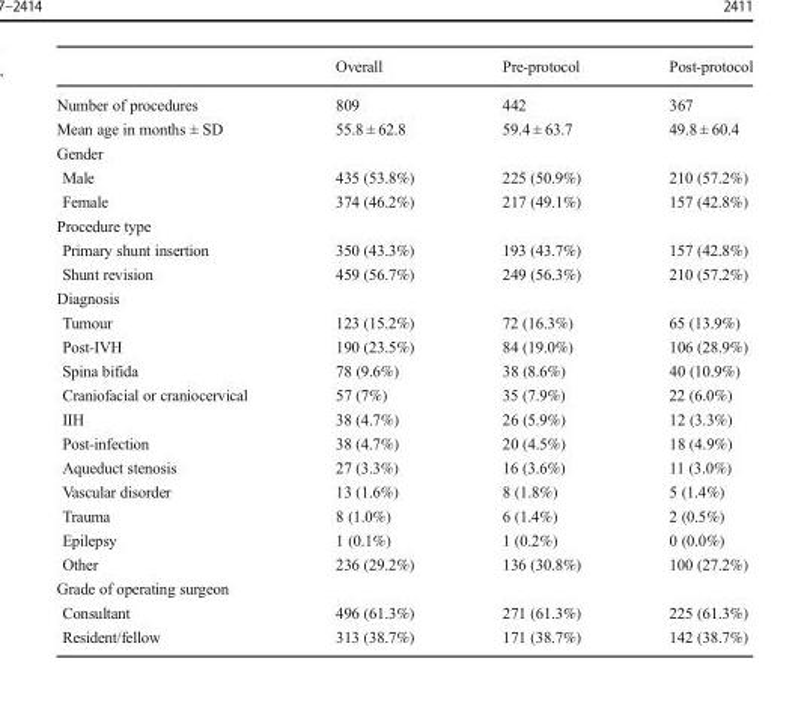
<table><thead><tr><td></td><td>Overall</td><td>Pre-protocol</td><td>Post-protocol</td></tr></thead><tbody><tr><td>Number of procedures</td><td>809</td><td>442</td><td>367</td></tr><tr><td>Mean age in months ± SD</td><td>55.8 ± 62.8</td><td>59.4 ± 63.7</td><td>49.8 ± 60.4</td></tr><tr><td colspan="4">Gender</td></tr><tr><td>Male</td><td>435 (53.8%)</td><td>225 (50.9%)</td><td>210 (57.2%)</td></tr><tr><td>Female</td><td>374 (46.2%)</td><td>217 (49.1%)</td><td>157 (42.8%)</td></tr><tr><td colspan="4">Procedure type</td></tr><tr><td>Primary shunt insertion</td><td>350 (43.3%)</td><td>193 (43.7%)</td><td>157 (42.8%)</td></tr><tr><td>Shunt revision</td><td>459 (56.7%)</td><td>249 (56.3%)</td><td>210 (57.2%)</td></tr><tr><td colspan="4">Diagnosis</td></tr><tr><td>Tumour</td><td>123 (15.2%)</td><td>72 (16.3%)</td><td>65 (13.9%)</td></tr><tr><td>Post-IVH</td><td>190 (23.5%)</td><td>84 (19.0%)</td><td>106 (28.9%)</td></tr><tr><td>Spina bifida</td><td>78 (9.6%)</td><td>38 (8.6%)</td><td>40 (10.9%)</td></tr><tr><td>Craniofacial or craniocervical</td><td>57 (7%)</td><td>35 (7.9%)</td><td>22 (6.0%)</td></tr><tr><td>IIH</td><td>38 (4.7%)</td><td>26 (5.9%)</td><td>12 (3.3%)</td></tr><tr><td>Post-infection</td><td>38 (4.7%)</td><td>20 (4.5%)</td><td>18 (4.9%)</td></tr><tr><td>Aqueduct stenosis</td><td>27 (3.3%)</td><td>16 (3.6%)</td><td>11 (3.0%)</td></tr><tr><td>Vascular disorder</td><td>13 (1.6%)</td><td>8 (1.8%)</td><td>5 (1.4%)</td></tr><tr><td>Trauma</td><td>8 (1.0%)</td><td>6 (1.4%)</td><td>2 (0.5%)</td></tr><tr><td>Epilepsy</td><td>1 (0.1%)</td><td>1 (0.2%)</td><td>0 (0.0%)</td></tr><tr><td>Other</td><td>236 (29.2%)</td><td>136 (30.8%)</td><td>100 (27.2%)</td></tr><tr><td colspan="4">Grade of operating surgeon</td></tr><tr><td>Consultant</td><td>496 (61.3%)</td><td>271 (61.3%)</td><td>225 (61.3%)</td></tr><tr><td>Resident/fellow</td><td>313 (38.7%)</td><td>171 (38.7%)</td><td>142 (38.7%)</td></tr></tbody></table>